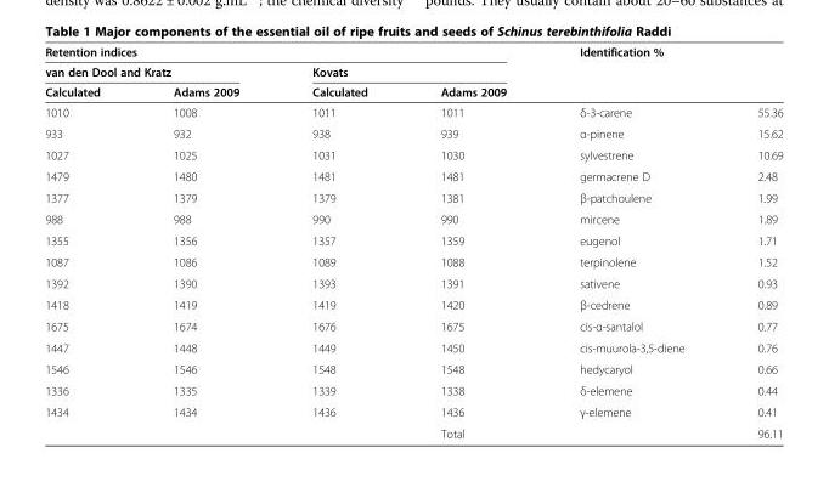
<table><thead><tr><td colspan="4">Retention indices</td><td rowspan="3" colspan="2">Identification %</td></tr><tr><td colspan="2">van den Dool and Kratz</td><td colspan="2">Kovats</td></tr><tr><td rowspan="2">Calculated 1010</td><td rowspan="2">Adams 2009 1008</td><td rowspan="2">Calculated 1011</td><td rowspan="2">Adams 2009 1011</td></tr><tr><td>δ-3-carene</td><td>55.36</td></tr></thead><tbody><tr><td>933</td><td>932</td><td>938</td><td>939</td><td>α-pinene</td><td>15.62</td></tr><tr><td>1027</td><td>1025</td><td>1031</td><td>1030</td><td>sylvestrene</td><td>10.69</td></tr><tr><td>1479</td><td>1480</td><td>1481</td><td>1481</td><td>germacrene D</td><td>2.48</td></tr><tr><td>1377</td><td>1379</td><td>1379</td><td>1381</td><td>β-patchoulene</td><td>1.99</td></tr><tr><td>988</td><td>988</td><td>990</td><td>990</td><td>mircene</td><td>1.89</td></tr><tr><td>1355</td><td>1356</td><td>1357</td><td>1359</td><td>eugenol</td><td>1.71</td></tr><tr><td>1087</td><td>1086</td><td>1089</td><td>1088</td><td>terpinolene</td><td>1.52</td></tr><tr><td>1392</td><td>1390</td><td>1393</td><td>1391</td><td>sativene</td><td>0.93</td></tr><tr><td>1418</td><td>1419</td><td>1419</td><td>1420</td><td>β-cedrene</td><td>0.89</td></tr><tr><td>1675</td><td>1674</td><td>1676</td><td>1675</td><td>cis-α-santalol</td><td>0.77</td></tr><tr><td>1447</td><td>1448</td><td>1449</td><td>1450</td><td>cis-muurola-3,5-diene</td><td>0.76</td></tr><tr><td>1546</td><td>1546</td><td>1548</td><td>1548</td><td>hedycaryol</td><td>0.66</td></tr><tr><td>1336</td><td>1335</td><td>1339</td><td>1338</td><td>δ-elemene</td><td>0.44</td></tr><tr><td rowspan="2">1434</td><td>1434</td><td>1436</td><td>1436</td><td>γ-elemene</td><td>0.41</td></tr><tr><td></td><td></td><td>Total</td><td></td><td>96.11</td></tr></tbody></table>